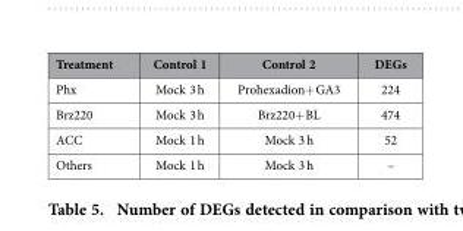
<table><thead><tr><td>Treatment</td><td>Control 1</td><td>Control 2</td><td>DEGs</td></tr></thead><tbody><tr><td>Phx</td><td>Mock 3 h</td><td>Prohexadion+ GA3</td><td>224</td></tr><tr><td>Brz220</td><td>Mock 3 h</td><td>Brz220+ BL</td><td>474</td></tr><tr><td>ACC</td><td>Mock 1 h</td><td>Mock 3 h</td><td>52</td></tr><tr><td>Others</td><td>Mock 1 h</td><td>Mock 3 h</td><td>–</td></tr></tbody></table>